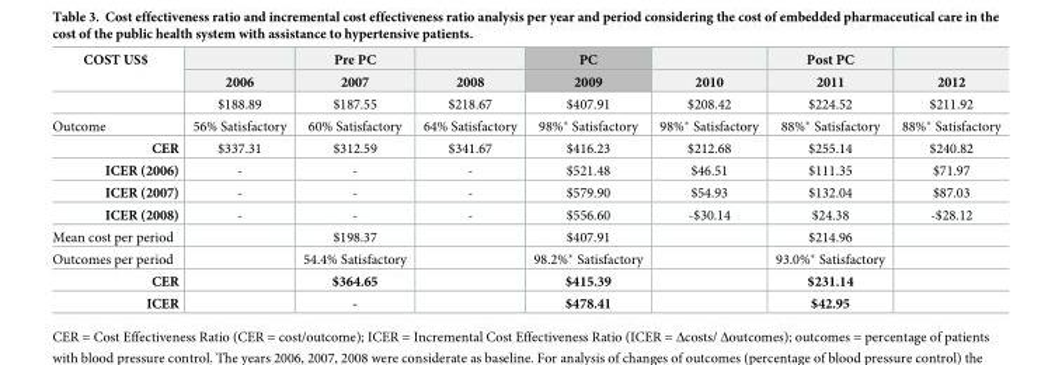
<table><thead><tr><td rowspan="2">COST US$</td><td rowspan="2">2006</td><td rowspan="2">Pre PC 2007</td><td rowspan="2">2008</td><td rowspan="2">PC 2009</td><td rowspan="2">2010</td><td rowspan="2">Post PC 2011</td><td rowspan="2">2012</td></tr><tr></tr></thead><tbody><tr><td></td><td>$188.89</td><td>$187.55</td><td>$218.67</td><td>$407.91</td><td>$208.42</td><td>$224.52</td><td>$211.92</td></tr><tr><td>Outcome</td><td>56% Satisfactory</td><td>60% Satisfactory</td><td>64% Satisfactory</td><td>98%* Satisfactory</td><td>98%* Satisfactory</td><td>88%* Satisfactory</td><td>88%* Satisfactory</td></tr><tr><td>CER</td><td>$337.31</td><td>$312.59</td><td>$341.67</td><td>$416.23</td><td>$212.68</td><td>$255.14</td><td>$240.82</td></tr><tr><td>ICER (2006)</td><td>-</td><td>-</td><td>-</td><td>$521.48</td><td>$46.51</td><td>$111.35</td><td>$71.97</td></tr><tr><td>ICER (2007)</td><td>-</td><td>-</td><td>-</td><td>$579.90</td><td>$54.93</td><td>$132.04</td><td>$87.03</td></tr><tr><td>ICER (2008)</td><td>-</td><td>-</td><td>-</td><td>$556.60</td><td>-$30.14</td><td>$24.38</td><td>-$28.12</td></tr><tr><td>Mean cost per period</td><td></td><td>$198.37</td><td></td><td>$407.91</td><td></td><td>$214.96</td><td></td></tr><tr><td>Outcomes per period</td><td></td><td>54.4% Satisfactory</td><td></td><td>98.2%* Satisfactory</td><td></td><td>93.0%* Satisfactory</td><td></td></tr><tr><td>CER</td><td></td><td>$364.65</td><td></td><td>$415.39</td><td></td><td>$231.14</td><td></td></tr><tr><td>ICER</td><td></td><td>-</td><td></td><td>$478.41</td><td></td><td>$42.95</td><td></td></tr></tbody></table>